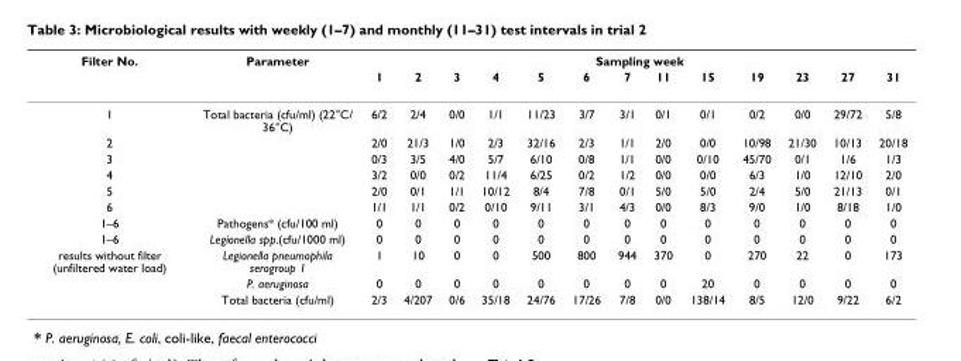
<table><thead><tr><td rowspan="2">Filter No.</td><td rowspan="2">Parameter</td><td colspan="13">Sampling week</td></tr><tr><td>1</td><td>2</td><td>3</td><td>4</td><td>5</td><td>6</td><td>7</td><td>11</td><td>15</td><td>19</td><td>23</td><td>27</td><td>31</td></tr></thead><tbody><tr><td>1</td><td>Total bacteria (cfu/ml) (22°C/ 36°C)</td><td>6/2</td><td>2/4</td><td>0/0</td><td>1/1</td><td>11/23</td><td>3/7</td><td>3/1</td><td>0/1</td><td>0/1</td><td>0/2</td><td>0/0</td><td>29/72</td><td>5/8</td></tr><tr><td>2</td><td></td><td>2/0</td><td>21/3</td><td>1/0</td><td>2/3</td><td>32/16</td><td>2/3</td><td>1/1</td><td>2/0</td><td>0/0</td><td>10/98</td><td>21/30</td><td>10/13</td><td>20/18</td></tr><tr><td>3</td><td></td><td>0/3</td><td>3/5</td><td>4/0</td><td>5/7</td><td>6/10</td><td>0/8</td><td>1/1</td><td>0/0</td><td>0/10</td><td>45/70</td><td>0/1</td><td>1/6</td><td>1/3</td></tr><tr><td>4</td><td></td><td>3/2</td><td>0/0</td><td>0/2</td><td>11/4</td><td>6/25</td><td>0/2</td><td>1/2</td><td>0/0</td><td>0/0</td><td>6/3</td><td>1/0</td><td>12/10</td><td>2/0</td></tr><tr><td>5</td><td></td><td>2/0</td><td>0/1</td><td>1/1</td><td>10/12</td><td>8/4</td><td>7/8</td><td>0/1</td><td>5/0</td><td>5/0</td><td>2/4</td><td>5/0</td><td>21/13</td><td>0/1</td></tr><tr><td>6</td><td></td><td>1/1</td><td>1/1</td><td>0/2</td><td>0/10</td><td>9/11</td><td>3/1</td><td>4/3</td><td>0/0</td><td>8/3</td><td>9/0</td><td>1/0</td><td>8/18</td><td>1/0</td></tr><tr><td>1–6</td><td>Pathogens* (cfu/100 ml)</td><td>0</td><td>0</td><td>0</td><td>0</td><td>0</td><td>0</td><td>0</td><td>0</td><td>0</td><td>0</td><td>0</td><td>0</td><td>0</td></tr><tr><td>1–6</td><td>Legionella spp.(cfu/1000 ml)</td><td>0</td><td>0</td><td>0</td><td>0</td><td>0</td><td>0</td><td>0</td><td>0</td><td>0</td><td>0</td><td>0</td><td>0</td><td>0</td></tr><tr><td rowspan="3">results without filter (unfiltered water load)</td><td>Legionella pneumophila serogroup 1</td><td>1</td><td>10</td><td>0</td><td>0</td><td>500</td><td>800</td><td>944</td><td>370</td><td>0</td><td>270</td><td>22</td><td>0</td><td>173</td></tr><tr><td>P. aeruginosa</td><td>0</td><td>0</td><td>0</td><td>0</td><td>0</td><td>0</td><td>0</td><td>0</td><td>20</td><td>0</td><td>0</td><td>0</td><td>0</td></tr><tr><td>Total bacteria (cfu/ml)</td><td>2/3</td><td>4/207</td><td>0/6</td><td>35/18</td><td>24/76</td><td>17/26</td><td>7/8</td><td>0/0</td><td>138/14</td><td>8/5</td><td>12/0</td><td>9/22</td><td>6/2</td></tr></tbody></table>